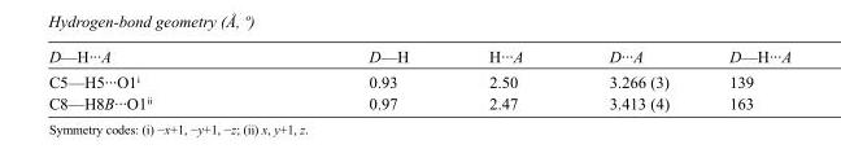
<table><tbody><tr><td>D—H···A</td><td>D—H</td><td>H···A</td><td>D···A</td><td>D—H···A</td></tr><tr><td>C5—H5···O1<sup>i</sup></td><td>0.93</td><td>2.50</td><td>3.266 (3)</td><td>139</td></tr><tr><td>C8—H8B···O1<sup>ii</sup></td><td>0.97</td><td>2.47</td><td>3.413 (4)</td><td>163</td></tr></tbody></table>